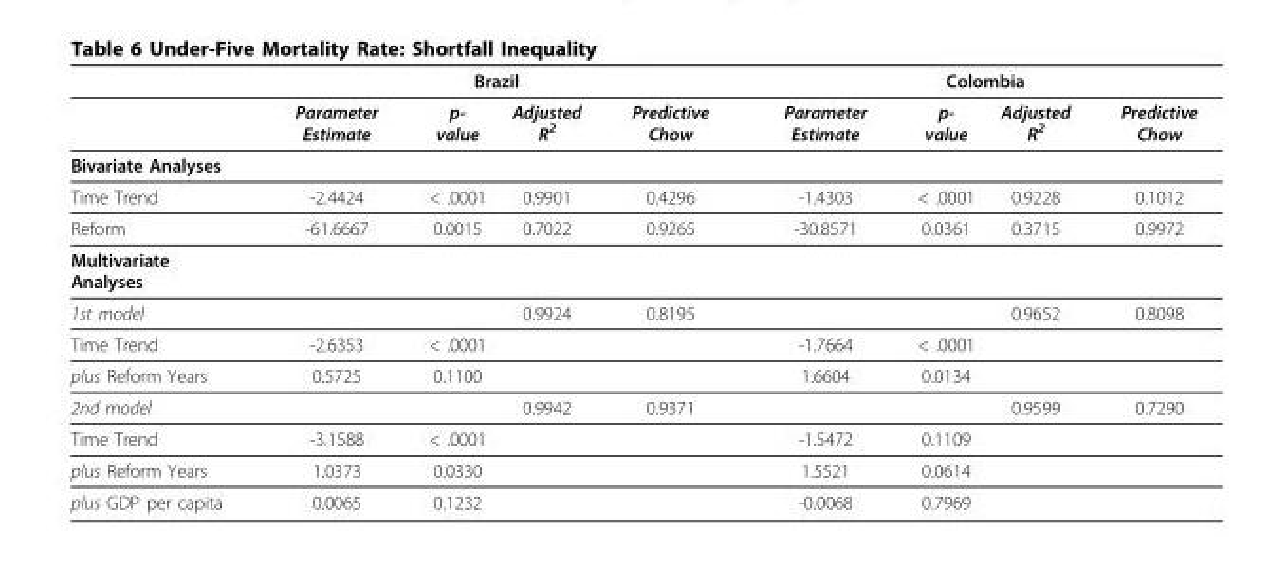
<table><thead><tr><td rowspan="2"></td><td colspan="4">Brazil</td><td colspan="4">Colombia</td></tr><tr><td>Parameter Estimate</td><td>p- value</td><td>Adjusted R2</td><td>Predictive Chow</td><td>Parameter Estimate</td><td>p- value</td><td>Adjusted R2</td><td>Predictive Chow</td></tr></thead><tbody><tr><td colspan="9">Bivariate Analyses</td></tr><tr><td>Time Trend</td><td>-2.4424</td><td>&lt; .0001</td><td>0.9901</td><td>0.4296</td><td>-1.4303</td><td>&lt; .0001</td><td>0.9228</td><td>0.1012</td></tr><tr><td>Reform</td><td>-61.6667</td><td>0.0015</td><td>0.7022</td><td>0.9265</td><td>-30.8571</td><td>0.0361</td><td>0.3715</td><td>0.9972</td></tr><tr><td colspan="9">Multivariate Analyses</td></tr><tr><td>1st model</td><td></td><td></td><td>0.9924</td><td>0.8195</td><td></td><td></td><td>0.9652</td><td>0.8098</td></tr><tr><td>Time Trend</td><td>-2.6353</td><td>&lt; .0001</td><td></td><td></td><td>-1.7664</td><td>&lt; .0001</td><td></td><td></td></tr><tr><td>plus Reform Years</td><td>0.5725</td><td>0.1100</td><td></td><td></td><td>1.6604</td><td>0.0134</td><td></td><td></td></tr><tr><td>2nd model</td><td></td><td></td><td>0.9942</td><td>0.9371</td><td></td><td></td><td>0.9599</td><td>0.7290</td></tr><tr><td>Time Trend</td><td>-3.1588</td><td>&lt; .0001</td><td></td><td></td><td>-1.5472</td><td>0.1109</td><td></td><td></td></tr><tr><td>plus Reform Years</td><td>1.0373</td><td>0.0330</td><td></td><td></td><td>1.5521</td><td>0.0614</td><td></td><td></td></tr><tr><td>plus GDP per capita</td><td>0.0065</td><td>0.1232</td><td></td><td></td><td>-0.0068</td><td>0.7969</td><td></td><td></td></tr></tbody></table>